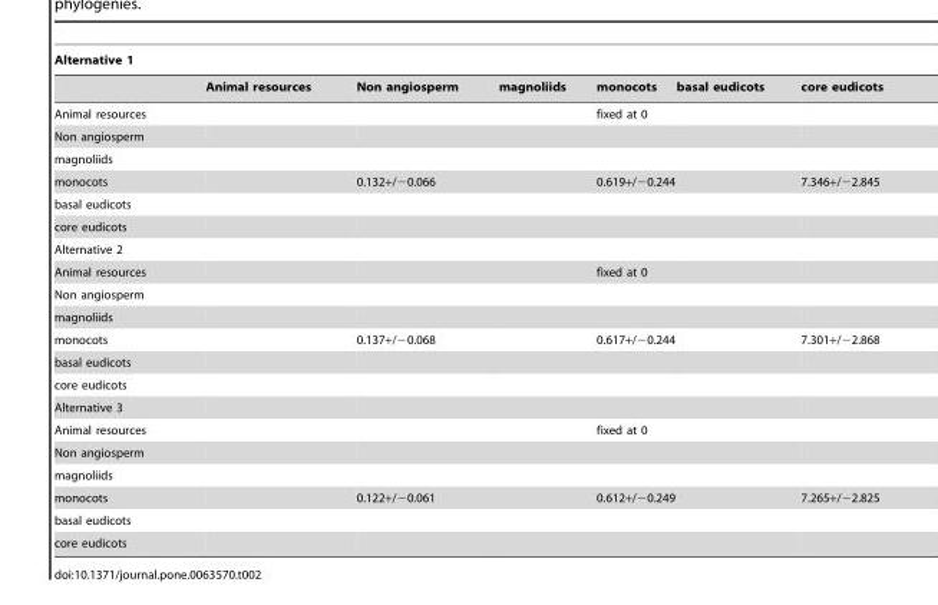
<table><thead><tr><td colspan="7">Alternative 1</td></tr><tr><td></td><td>Animal resources</td><td>Non angiosperm</td><td>magnoliids</td><td>monocots</td><td>basal eudicots</td><td>core eudicots</td></tr></thead><tbody><tr><td>Animal resources</td><td></td><td></td><td></td><td>fixed at 0</td><td></td><td></td></tr><tr><td colspan="7">Non angiosperm</td></tr><tr><td colspan="7">magnoliids</td></tr><tr><td>monocots</td><td></td><td colspan="2">0.132+/−0.066</td><td colspan="2">0.619+/−0.244</td><td>7.346+/−2.845</td></tr><tr><td colspan="7">basal eudicots</td></tr><tr><td colspan="7">core eudicots</td></tr><tr><td colspan="7">Alternative 2</td></tr><tr><td>Animal resources</td><td></td><td></td><td></td><td>fixed at 0</td><td></td><td></td></tr><tr><td colspan="7">Non angiosperm</td></tr><tr><td colspan="7">magnoliids</td></tr><tr><td>monocots</td><td></td><td colspan="2">0.137+/−0.068</td><td colspan="2">0.617+/−0.244</td><td>7.301+/−2.868</td></tr><tr><td colspan="7">basal eudicots</td></tr><tr><td colspan="7">core eudicots</td></tr><tr><td colspan="7">Alternative 3</td></tr><tr><td>Animal resources</td><td></td><td></td><td></td><td>fixed at 0</td><td></td><td></td></tr><tr><td colspan="7">Non angiosperm</td></tr><tr><td colspan="7">magnoliids</td></tr><tr><td>monocots</td><td></td><td colspan="2">0.122+/−0.061</td><td colspan="2">0.612+/−0.249</td><td>7.265+/−2.825</td></tr><tr><td colspan="7">basal eudicots</td></tr><tr><td>core eudicots</td><td></td><td></td><td></td><td></td><td></td><td></td></tr></tbody></table>